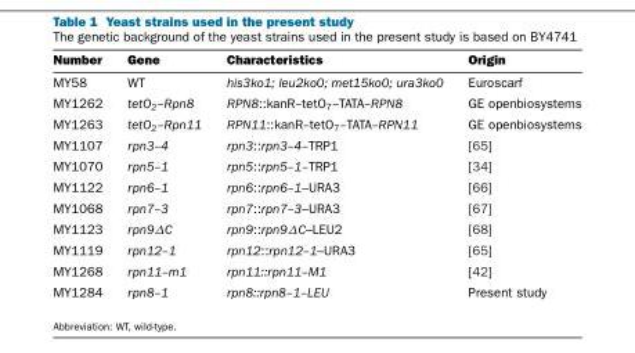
<table><thead><tr><td>Number</td><td>Gene</td><td>Characteristics</td><td>Origin</td></tr></thead><tbody><tr><td>MY58</td><td>WT</td><td>his3ko1; leu2ko0; met15ko0; ura3ko0</td><td>Euroscarf</td></tr><tr><td>MY1262</td><td>tetO<sub>2</sub>–Rpn8</td><td>RPN8::kanR–tetO<sub>7</sub>–TATA–RPN8</td><td>GE openbiosystems</td></tr><tr><td>MY1263</td><td>tetO<sub>2</sub>–Rpn11</td><td>RPN11::kanR–tetO<sub>7</sub>–TATA–RPN11</td><td>GE openbiosystems</td></tr><tr><td>MY1107</td><td>rpn3–4</td><td>rpn3::rpn3–4–TRP1</td><td>[65]</td></tr><tr><td>MY1070</td><td>rpn5–1</td><td>rpn5::rpn5–1–TRP1</td><td>[34]</td></tr><tr><td>MY1122</td><td>rpn6–1</td><td>rpn6::rpn6–1–URA3</td><td>[66]</td></tr><tr><td>MY1068</td><td>rpn7–3</td><td>rpn7::rpn7–3–URA3</td><td>[67]</td></tr><tr><td>MY1123</td><td>rpn9ΔC</td><td>rpn9::rpn9ΔC–LEU2</td><td>[68]</td></tr><tr><td>MY1119</td><td>rpn12–1</td><td>rpn12::rpn12–1–URA3</td><td>[65]</td></tr><tr><td>MY1268</td><td>rpn11–m1</td><td>rpn11::rpn11–M1</td><td>[42]</td></tr><tr><td>MY1284</td><td>rpn8–1</td><td>rpn8::rpn8–1–LEU</td><td>Present study</td></tr></tbody></table>